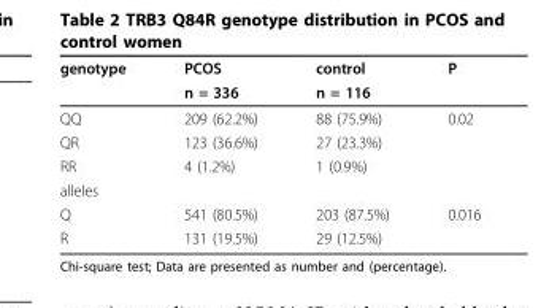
<table><thead><tr><td rowspan="2">genotype</td><td rowspan="2">PCOS n = 336</td><td rowspan="2">control n = 116</td><td rowspan="2">P</td></tr><tr></tr></thead><tbody><tr><td>QQ</td><td>209 (62.2%)</td><td>88 (75.9%)</td><td>0.02</td></tr><tr><td>QR</td><td>123 (36.6%)</td><td>27 (23.3%)</td><td></td></tr><tr><td>RR</td><td>4 (1.2%)</td><td>1 (0.9%)</td><td></td></tr><tr><td colspan="4">alleles</td></tr><tr><td>Q</td><td>541 (80.5%)</td><td>203 (87.5%)</td><td>0.016</td></tr><tr><td>R</td><td>131 (19.5%)</td><td>29 (12.5%)</td><td></td></tr></tbody></table>